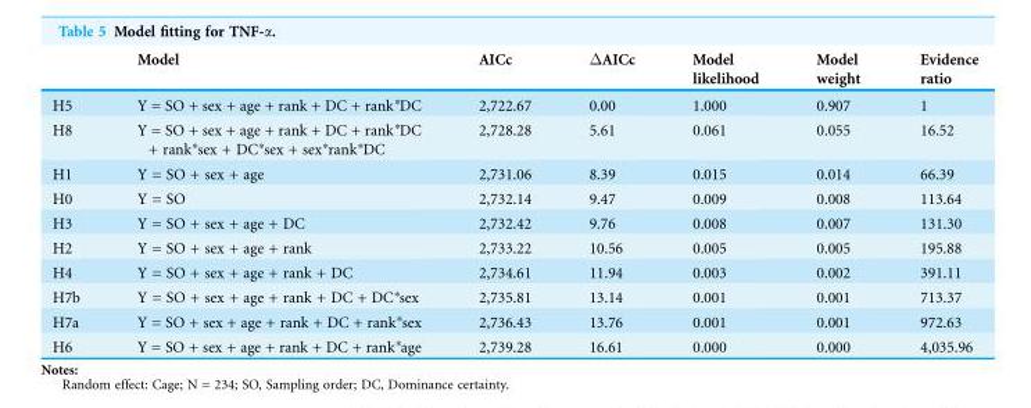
<table><thead><tr><td></td><td>Model</td><td>AICc</td><td>ΔAICc</td><td>Model likelihood</td><td>Model weight</td><td>Evidence ratio</td></tr></thead><tbody><tr><td>H5</td><td>Y = SO + sex + age + rank + DC + rank*DC</td><td>2,722.67</td><td>0.00</td><td>1.000</td><td>0.907</td><td>1</td></tr><tr><td>H8</td><td>Y = SO + sex + age + rank + DC + rank*DC + rank*sex + DC*sex + sex*rank*DC</td><td>2,728.28</td><td>5.61</td><td>0.061</td><td>0.055</td><td>16.52</td></tr><tr><td>H1</td><td>Y = SO + sex + age</td><td>2,731.06</td><td>8.39</td><td>0.015</td><td>0.014</td><td>66.39</td></tr><tr><td>H0</td><td>Y = SO</td><td>2,732.14</td><td>9.47</td><td>0.009</td><td>0.008</td><td>113.64</td></tr><tr><td>H3</td><td>Y = SO + sex + age + DC</td><td>2,732.42</td><td>9.76</td><td>0.008</td><td>0.007</td><td>131.30</td></tr><tr><td>H2</td><td>Y = SO + sex + age + rank</td><td>2,733.22</td><td>10.56</td><td>0.005</td><td>0.005</td><td>195.88</td></tr><tr><td>H4</td><td>Y = SO + sex + age + rank + DC</td><td>2,734.61</td><td>11.94</td><td>0.003</td><td>0.002</td><td>391.11</td></tr><tr><td>H7b</td><td>Y = SO + sex + age + rank + DC + DC*sex</td><td>2,735.81</td><td>13.14</td><td>0.001</td><td>0.001</td><td>713.37</td></tr><tr><td>H7a</td><td>Y = SO + sex + age + rank + DC + rank*sex</td><td>2,736.43</td><td>13.76</td><td>0.001</td><td>0.001</td><td>972.63</td></tr><tr><td>H6</td><td>Y = SO + sex + age + rank + DC + rank*age</td><td>2,739.28</td><td>16.61</td><td>0.000</td><td>0.000</td><td>4,035.96</td></tr></tbody></table>